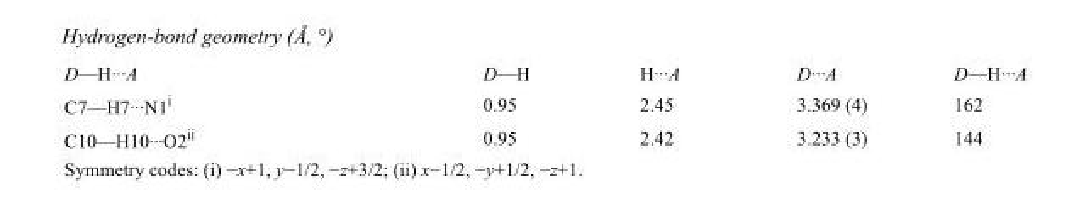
<table><tbody><tr><td>D—H···A</td><td>D—H</td><td>H···A</td><td>D···A</td><td>D—H···A</td></tr><tr><td>C7—H7···N1<sup>i</sup></td><td>0.95</td><td>2.45</td><td>3.369 (4)</td><td>162</td></tr><tr><td>C10—H10···O2<sup>ii</sup></td><td>0.95</td><td>2.42</td><td>3.233 (3)</td><td>144</td></tr></tbody></table>